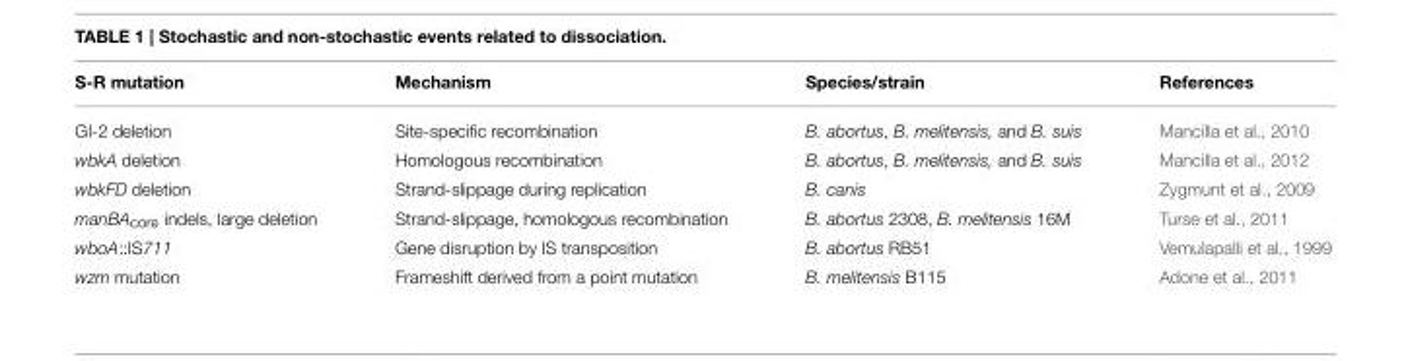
<table><thead><tr><td>S-R mutation</td><td>Mechanism</td><td>Species/strain</td><td>References</td></tr></thead><tbody><tr><td>GI-2 deletion</td><td>Site-specific recombination</td><td>B. abortus, B. melitensis, and B. suis</td><td>Mancilla et al., 2010</td></tr><tr><td>wbkA deletion</td><td>Homologous recombination</td><td>B. abortus, B. melitensis, and B. suis</td><td>Mancilla et al., 2012</td></tr><tr><td>wbkFD deletion</td><td>Strand-slippage during replication</td><td>B. canis</td><td>Zygmunt et al., 2009</td></tr><tr><td>manBA<sub>core</sub> indels, large deletion</td><td>Strand-slippage, homologous recombination</td><td>B. abortus 2308, B. melitensis 16M</td><td>Turse et al., 2011</td></tr><tr><td>wboA::IS711</td><td>Gene disruption by IS transposition</td><td>B. abortus RB51</td><td>Vemulapalli et al., 1999</td></tr><tr><td>wzm mutation</td><td>Frameshift derived from a point mutation</td><td>B. melitensis B115</td><td>Adone et al., 2011</td></tr></tbody></table>